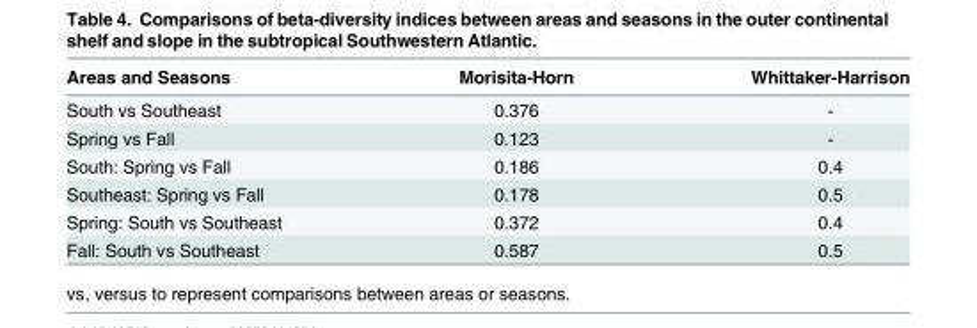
<table><thead><tr><td>Areas and Seasons</td><td>Morisita-Horn</td><td>Whittaker-Harrison</td></tr></thead><tbody><tr><td>South vs Southeast</td><td>0.376</td><td>-</td></tr><tr><td>Spring vs Fall</td><td>0.123</td><td>-</td></tr><tr><td>South: Spring vs Fall</td><td>0.186</td><td>0.4</td></tr><tr><td>Southeast: Spring vs Fall</td><td>0.178</td><td>0.5</td></tr><tr><td>Spring: South vs Southeast</td><td>0.372</td><td>0.4</td></tr><tr><td>Fall: South vs Southeast</td><td>0.587</td><td>0.5</td></tr></tbody></table>